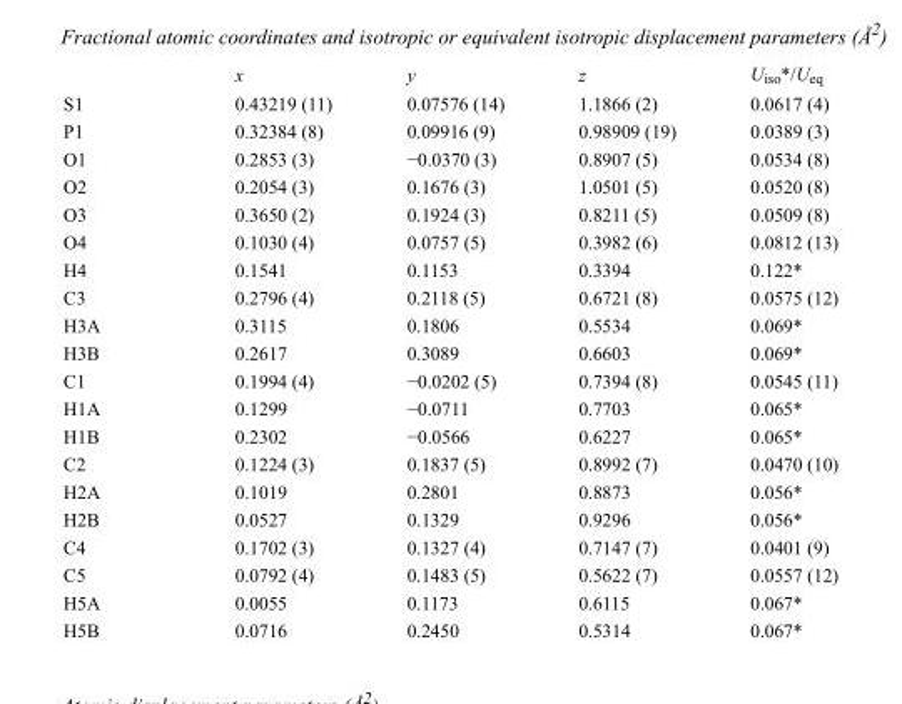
<table><thead><tr><td></td><td>x</td><td>y</td><td>z</td><td>U<sub>iso</sub>*/U<sub>eq</sub></td></tr></thead><tbody><tr><td>S1</td><td>0.43219 (11)</td><td>0.07576 (14)</td><td>1.1866 (2)</td><td>0.0617 (4)</td></tr><tr><td>P1</td><td>0.32384 (8)</td><td>0.09916 (9)</td><td>0.98909 (19)</td><td>0.0389 (3)</td></tr><tr><td>O1</td><td>0.2853 (3)</td><td>−0.0370 (3)</td><td>0.8907 (5)</td><td>0.0534 (8)</td></tr><tr><td>O2</td><td>0.2054 (3)</td><td>0.1676 (3)</td><td>1.0501 (5)</td><td>0.0520 (8)</td></tr><tr><td>O3</td><td>0.3650 (2)</td><td>0.1924 (3)</td><td>0.8211 (5)</td><td>0.0509 (8)</td></tr><tr><td>O4</td><td>0.1030 (4)</td><td>0.0757 (5)</td><td>0.3982 (6)</td><td>0.0812 (13)</td></tr><tr><td>H4</td><td>0.1541</td><td>0.1153</td><td>0.3394</td><td>0.122*</td></tr><tr><td>C3</td><td>0.2796 (4)</td><td>0.2118 (5)</td><td>0.6721 (8)</td><td>0.0575 (12)</td></tr><tr><td>H3A</td><td>0.3115</td><td>0.1806</td><td>0.5534</td><td>0.069*</td></tr><tr><td>H3B</td><td>0.2617</td><td>0.3089</td><td>0.6603</td><td>0.069*</td></tr><tr><td>C1</td><td>0.1994 (4)</td><td>−0.0202 (5)</td><td>0.7394 (8)</td><td>0.0545 (11)</td></tr><tr><td>H1A</td><td>0.1299</td><td>−0.0711</td><td>0.7703</td><td>0.065*</td></tr><tr><td>H1B</td><td>0.2302</td><td>−0.0566</td><td>0.6227</td><td>0.065*</td></tr><tr><td>C2</td><td>0.1224 (3)</td><td>0.1837 (5)</td><td>0.8992 (7)</td><td>0.0470 (10)</td></tr><tr><td>H2A</td><td>0.1019</td><td>0.2801</td><td>0.8873</td><td>0.056*</td></tr><tr><td>H2B</td><td>0.0527</td><td>0.1329</td><td>0.9296</td><td>0.056*</td></tr><tr><td>C4</td><td>0.1702 (3)</td><td>0.1327 (4)</td><td>0.7147 (7)</td><td>0.0401 (9)</td></tr><tr><td>C5</td><td>0.0792 (4)</td><td>0.1483 (5)</td><td>0.5622 (7)</td><td>0.0557 (12)</td></tr><tr><td>H5A</td><td>0.0055</td><td>0.1173</td><td>0.6115</td><td>0.067*</td></tr><tr><td>H5B</td><td>0.0716</td><td>0.2450</td><td>0.5314</td><td>0.067*</td></tr></tbody></table>